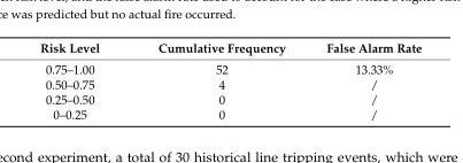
<table><thead><tr><td>Risk Level</td><td>Cumulative Frequency</td><td>False Alarm Rate</td></tr></thead><tbody><tr><td>0.75–1.00</td><td>52</td><td>13.33%</td></tr><tr><td>0.50–0.75</td><td>4</td><td>/</td></tr><tr><td>0.25–0.50</td><td>0</td><td>/</td></tr><tr><td>0–0.25</td><td>0</td><td>/</td></tr></tbody></table>